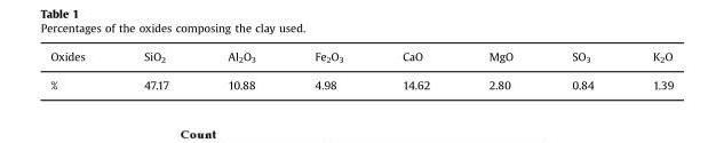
<table><thead><tr><td>Oxides</td><td>SiO<sub>2</sub></td><td>Al<sub>2</sub>O<sub>3</sub></td><td>Fe<sub>2</sub>O<sub>3</sub></td><td>CaO</td><td>MgO</td><td>SO<sub>3</sub></td><td>K<sub>2</sub>O</td></tr></thead><tbody><tr><td>%</td><td>47.17</td><td>10.88</td><td>4.98</td><td>14.62</td><td>2.80</td><td>0.84</td><td>1.39</td></tr></tbody></table>